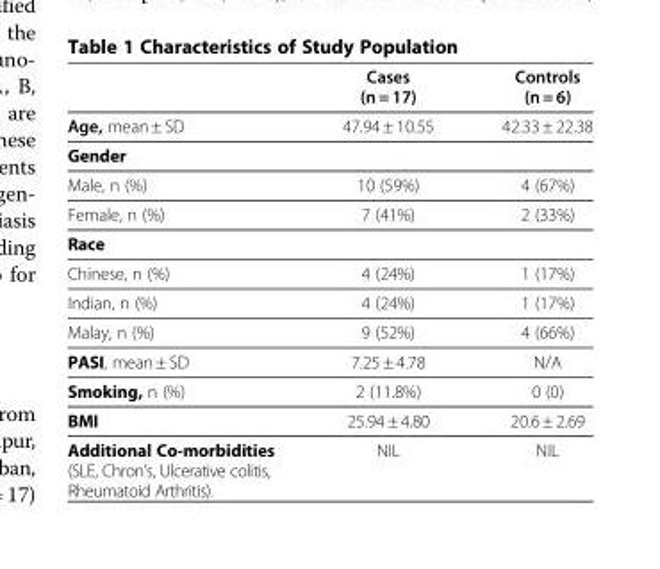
<table><thead><tr><td rowspan="2">Age, mean ± SD</td><td rowspan="2">Cases (n = 17) 47.94 ± 10.55</td><td rowspan="2">Controls (n = 6) 42.33 ± 22.38</td></tr><tr></tr></thead><tbody><tr><td colspan="3">Gender</td></tr><tr><td>Male, n (%)</td><td>10 (59%)</td><td>4 (67%)</td></tr><tr><td>Female, n (%)</td><td>7 (41%)</td><td>2 (33%)</td></tr><tr><td colspan="3">Race</td></tr><tr><td>Chinese, n (%)</td><td>4 (24%)</td><td>1 (17%)</td></tr><tr><td>Indian, n (%)</td><td>4 (24%)</td><td>1 (17%)</td></tr><tr><td>Malay, n (%)</td><td>9 (52%)</td><td>4 (66%)</td></tr><tr><td>PASI, mean ± SD</td><td>7.25 ± 4.78</td><td>N/A</td></tr><tr><td>Smoking, n (%)</td><td>2 (11.8%)</td><td>0 (0)</td></tr><tr><td>BMI</td><td>25.94 ± 4.80</td><td>20.6 ± 2.69</td></tr><tr><td>Additional Co-morbidities (SLE, Chron’s, Ulcerative colitis, Rheumatoid Arthritis).</td><td>NIL</td><td>NIL</td></tr></tbody></table>